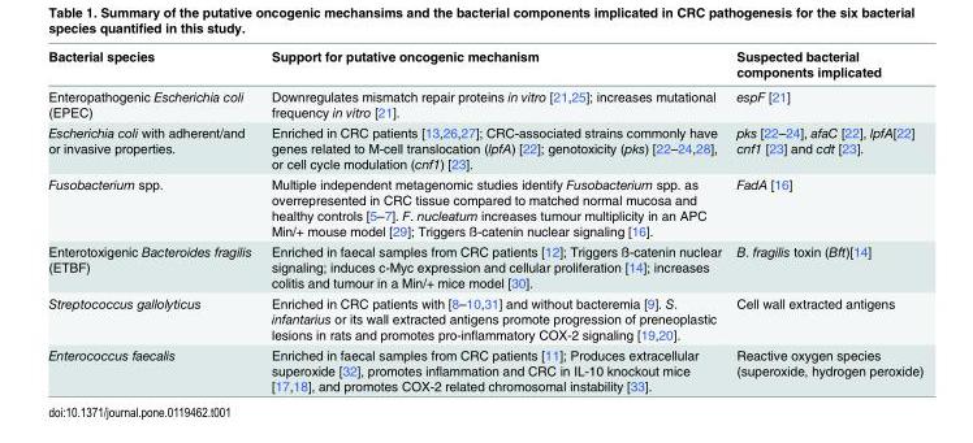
<table><thead><tr><td>Bacterial species</td><td>Support for putative oncogenic mechanism</td><td>Suspected bacterial components implicated</td></tr></thead><tbody><tr><td>Enteropathogenic Escherichia coli (EPEC)</td><td>Downregulates mismatch repair proteins in vitro [21,25]; increases mutational frequency in vitro [21].</td><td>espF [21]</td></tr><tr><td>Escherichia coli with adherent/and or invasive properties.</td><td>Enriched in CRC patients [13,26,27]; CRC-associated strains commonly have genes related to M-cell translocation (lpfA) [22]; genotoxicity (pks) [22–24,28], or cell cycle modulation (cnf1) [23].</td><td>pks [22–24], afaC [22], lpfA[22] cnf1 [23] and cdt [23].</td></tr><tr><td>Fusobacterium spp.</td><td>Multiple independent metagenomic studies identify Fusobacterium spp. as overrepresented in CRC tissue compared to matched normal mucosa and healthy controls [5–7]. F. nucleatum increases tumour multiplicity in an APC Min/+ mouse model [29]; Triggers ß-catenin nuclear signaling [16].</td><td>FadA [16]</td></tr><tr><td>Enterotoxigenic Bacteroides fragilis (ETBF)</td><td>Enriched in faecal samples from CRC patients [12]; Triggers ß-catenin nuclear signaling; induces c-Myc expression and cellular proliferation [14]; increases colitis and tumour in a Min/+ mice model [30].</td><td>B. fragilis toxin (Bft)[14]</td></tr><tr><td>Streptococcus gallolyticus</td><td>Enriched in CRC patients with [8–10,31] and without bacteremia [9]. S. infantarius or its wall extracted antigens promote progression of preneoplastic lesions in rats and promotes pro-inflammatory COX-2 signaling [19,20].</td><td>Cell wall extracted antigens</td></tr><tr><td>Enterococcus faecalis</td><td>Enriched in faecal samples from CRC patients [11]; Produces extracellular superoxide [32], promotes inflammation and CRC in IL-10 knockout mice [17,18], and promotes COX-2 related chromosomal instability [33].</td><td>Reactive oxygen species (superoxide, hydrogen peroxide)</td></tr></tbody></table>